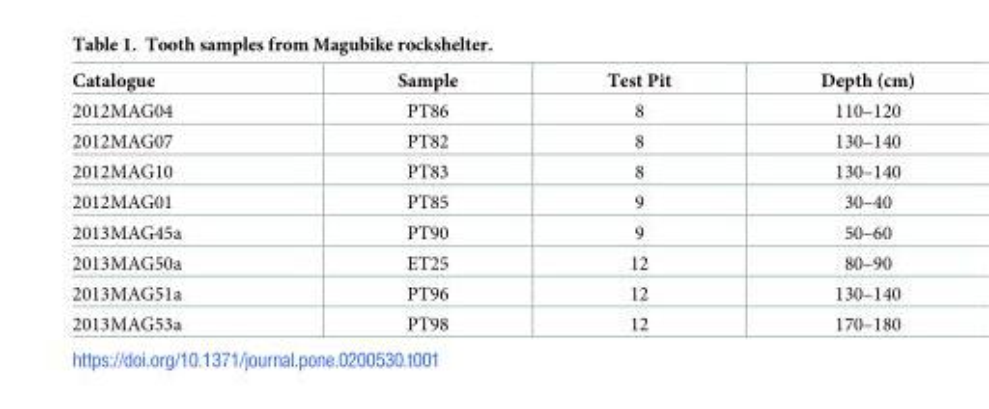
<table><thead><tr><td>Catalogue</td><td>Sample</td><td>Test Pit</td><td>Depth (cm)</td></tr></thead><tbody><tr><td>2012MAG04</td><td>PT86</td><td>8</td><td>110–120</td></tr><tr><td>2012MAG07</td><td>PT82</td><td>8</td><td>130–140</td></tr><tr><td>2012MAG10</td><td>PT83</td><td>8</td><td>130–140</td></tr><tr><td>2012MAG01</td><td>PT85</td><td>9</td><td>30–40</td></tr><tr><td>2013MAG45a</td><td>PT90</td><td>9</td><td>50–60</td></tr><tr><td>2013MAG50a</td><td>ET25</td><td>12</td><td>80–90</td></tr><tr><td>2013MAG51a</td><td>PT96</td><td>12</td><td>130–140</td></tr><tr><td>2013MAG53a</td><td>PT98</td><td>12</td><td>170–180</td></tr></tbody></table>